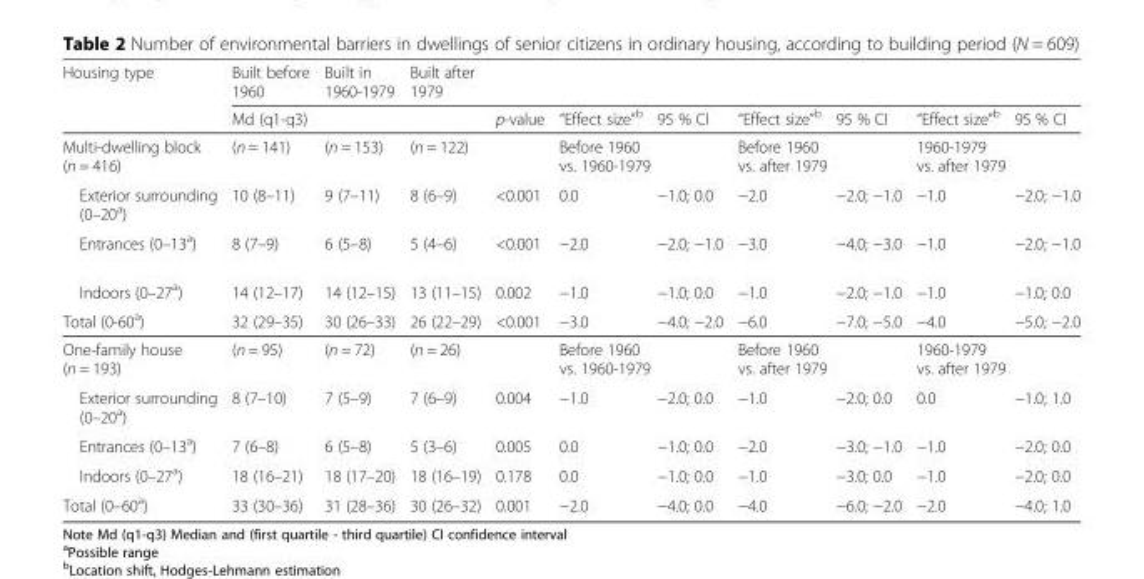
<table><thead><tr><td rowspan="3">Housing type Multi-dwelling block (n = 416)</td><td>Built before 1960</td><td>Built in 1960-1979</td><td colspan="8">Built after 1979</td></tr><tr><td colspan="3">Md (q1-q3)</td><td rowspan="2">p-value</td><td>“Effect size”<sup>b</sup></td><td>95 % CI</td><td>“Effect size”<sup>b</sup></td><td>95 % CI</td><td>“Effect size”<sup>b</sup></td><td>95 % CI</td></tr><tr><td>(n = 141)</td><td>(n = 153)</td><td>(n = 122)</td><td colspan="2">Before 1960 vs. 1960-1979</td><td colspan="2">Before 1960 vs. after 1979</td><td colspan="2">1960-1979 vs. after 1979</td></tr></thead><tbody><tr><td>Exterior surrounding (0–20<sup>a</sup>)</td><td>10 (8–11)</td><td>9 (7–11)</td><td>8 (6–9)</td><td>&lt;0.001</td><td>0.0</td><td>−1.0; 0.0</td><td>−2.0</td><td>−2.0; −1.0</td><td>−1.0</td><td>−2.0; −1.0</td></tr><tr><td>Entrances (0–13<sup>a</sup>)</td><td>8 (7–9)</td><td>6 (5–8)</td><td>5 (4–6)</td><td>&lt;0.001</td><td>−2.0</td><td>−2.0; −1.0</td><td>−3.0</td><td>−4.0; −3.0</td><td>−1.0</td><td>−2.0; −1.0</td></tr><tr><td>Indoors (0–27<sup>a</sup>)</td><td>14 (12–17)</td><td>14 (12–15)</td><td>13 (11–15)</td><td>0.002</td><td>−1.0</td><td>−1.0; 0.0</td><td>−1.0</td><td>−2.0; −1.0</td><td>−1.0</td><td>−1.0; 0.0</td></tr><tr><td>Total (0-60<sup>a</sup>)</td><td>32 (29–35)</td><td>30 (26–33)</td><td>26 (22–29)</td><td>&lt;0.001</td><td>−3.0</td><td>−4.0; −2.0</td><td>−6.0</td><td>−7.0; −5.0</td><td>−4.0</td><td>−5.0; −2.0</td></tr><tr><td>One-family house (n = 193)</td><td>(n = 95)</td><td>(n = 72)</td><td>(n = 26)</td><td></td><td colspan="2">Before 1960 vs. 1960-1979</td><td colspan="2">Before 1960 vs. after 1979</td><td colspan="2">1960-1979 vs. after 1979</td></tr><tr><td>Exterior surrounding (0–20<sup>a</sup>)</td><td>8 (7–10)</td><td>7 (5–9)</td><td>7 (6–9)</td><td>0.004</td><td>−1.0</td><td>−2.0; 0.0</td><td>−1.0</td><td>−2.0; 0.0</td><td>0.0</td><td>−1.0; 1.0</td></tr><tr><td>Entrances (0–13<sup>a</sup>)</td><td>7 (6–8)</td><td>6 (5–8)</td><td>5 (3–6)</td><td>0.005</td><td>0.0</td><td>−1.0; 0.0</td><td>−2.0</td><td>−3.0; −1.0</td><td>−1.0</td><td>−2.0; 0.0</td></tr><tr><td>Indoors (0–27<sup>a</sup>)</td><td>18 (16–21)</td><td>18 (17–20)</td><td>18 (16–19)</td><td>0.178</td><td>0.0</td><td>−1.0; 0.0</td><td>−1.0</td><td>−3.0; 0.0</td><td>−1.0</td><td>−2.0; 0.0</td></tr><tr><td>Total (0–60<sup>a</sup>)</td><td>33 (30–36)</td><td>31 (28–36)</td><td>30 (26–32)</td><td>0.001</td><td>−2.0</td><td>−4.0; 0.0</td><td>−4.0</td><td>−6.0; −2.0</td><td>−2.0</td><td>−4.0; 1.0</td></tr></tbody></table>